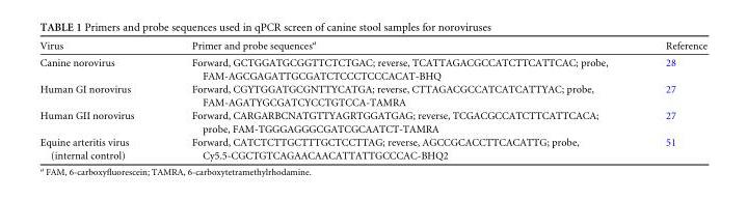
<table><thead><tr><td>Virus</td><td>Primer and probe sequences<sup>a</sup></td><td>Reference</td></tr></thead><tbody><tr><td>Canine norovirus</td><td>Forward, GCTGGATGCGGTTCTCTGAC; reverse, TCATTAGACGCCATCTTCATTCAC; probe, FAM-AGCGAGATTGCGATCTCCCTCCCACAT-BHQ</td><td>28</td></tr><tr><td>Human GI norovirus</td><td>Forward, CGYTGGATGCGNTTYCATGA; reverse, CTTAGACGCCATCATCATTYAC; probe, FAM-AGATYGCGATCYCCTGTCCA-TAMRA</td><td>27</td></tr><tr><td>Human GII norovirus</td><td>Forward, CARGARBCNATGTTYAGRTGGATGAG; reverse, TCGACGCCATCTTCATTCACA; probe, FAM-TGGGAGGGCGATCGCAATCT-TAMRA</td><td>27</td></tr><tr><td>Equine arteritis virus (internal control)</td><td>Forward, CATCTCTTGCTTTGCTCCTTAG; reverse, AGCCGCACCTTCACATTG; probe, Cy5.5-CGCTGTCAGAACAACATTATTGCCCAC-BHQ2</td><td>51</td></tr></tbody></table>